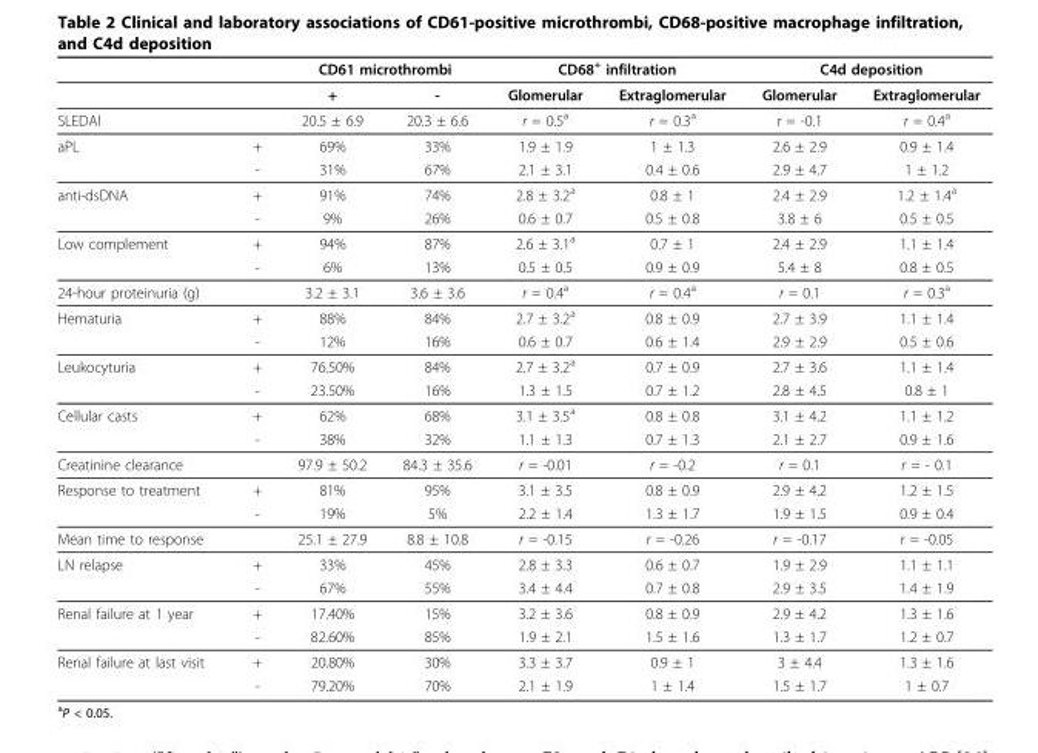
<table><thead><tr><td rowspan="2"></td><td rowspan="2"></td><td colspan="2">CD61 microthrombi</td><td colspan="2">CD68<sup>+</sup> infiltration</td><td colspan="2">C4d deposition</td></tr><tr><td>+</td><td>-</td><td>Glomerular</td><td>Extraglomerular</td><td>Glomerular</td><td>Extraglomerular</td></tr></thead><tbody><tr><td>SLEDAI</td><td></td><td>20.5 ± 6.9</td><td>20.3 ± 6.6</td><td>r = 0.5<sup>a</sup></td><td>r = 0.3<sup>a</sup></td><td>r = -0.1</td><td>r = 0.4<sup>a</sup></td></tr><tr><td rowspan="2">aPL</td><td>+</td><td>69%</td><td>33%</td><td>1.9 ± 1.9</td><td>1 ± 1.3</td><td>2.6 ± 2.9</td><td>0.9 ± 1.4</td></tr><tr><td>-</td><td>31%</td><td>67%</td><td>2.1 ± 3.1</td><td>0.4 ± 0.6</td><td>2.9 ± 4.7</td><td>1 ± 1.2</td></tr><tr><td rowspan="2">anti-dsDNA</td><td>+</td><td>91%</td><td>74%</td><td>2.8 ± 3.2<sup>a</sup></td><td>0.8 ± 1</td><td>2.4 ± 2.9</td><td>1.2 ± 1.4<sup>a</sup></td></tr><tr><td>-</td><td>9%</td><td>26%</td><td>0.6 ± 0.7</td><td>0.5 ± 0.8</td><td>3.8 ± 6</td><td>0.5 ± 0.5</td></tr><tr><td rowspan="2">Low complement</td><td>+</td><td>94%</td><td>87%</td><td>2.6 ± 3.1<sup>a</sup></td><td>0.7 ± 1</td><td>2.4 ± 2.9</td><td>1.1 ± 1.4</td></tr><tr><td>-</td><td>6%</td><td>13%</td><td>0.5 ± 0.5</td><td>0.9 ± 0.9</td><td>5.4 ± 8</td><td>0.8 ± 0.5</td></tr><tr><td>24-hour proteinuria (g)</td><td></td><td>3.2 ± 3.1</td><td>3.6 ± 3.6</td><td>r = 0.4<sup>a</sup></td><td>r = 0.4<sup>a</sup></td><td>r = 0.1</td><td>r = 0.3<sup>a</sup></td></tr><tr><td rowspan="2">Hematuria</td><td>+</td><td>88%</td><td>84%</td><td>2.7 ± 3.2<sup>a</sup></td><td>0.8 ± 0.9</td><td>2.7 ± 3.9</td><td>1.1 ± 1.4</td></tr><tr><td>-</td><td>12%</td><td>16%</td><td>0.6 ± 0.7</td><td>0.6 ± 1.4</td><td>2.9 ± 2.9</td><td>0.5 ± 0.6</td></tr><tr><td rowspan="2">Leukocyturia</td><td>+</td><td>76.50%</td><td>84%</td><td>2.7 ± 3.2<sup>a</sup></td><td>0.7 ± 0.9</td><td>2.7 ± 3.6</td><td>1.1 ± 1.4</td></tr><tr><td>-</td><td>23.50%</td><td>16%</td><td>1.3 ± 1.5</td><td>0.7 ± 1.2</td><td>2.8 ± 4.5</td><td>0.8 ± 1</td></tr><tr><td rowspan="2">Cellular casts</td><td>+</td><td>62%</td><td>68%</td><td>3.1 ± 3.5<sup>a</sup></td><td>0.8 ± 0.8</td><td>3.1 ± 4.2</td><td>1.1 ± 1.2</td></tr><tr><td>-</td><td>38%</td><td>32%</td><td>1.1 ± 1.3</td><td>0.7 ± 1.3</td><td>2.1 ± 2.7</td><td>0.9 ± 1.6</td></tr><tr><td>Creatinine clearance</td><td></td><td>97.9 ± 50.2</td><td>84.3 ± 35.6</td><td>r = -0.01</td><td>r = -0.2</td><td>r = 0.1</td><td>r = - 0.1</td></tr><tr><td rowspan="2">Response to treatment</td><td>+</td><td>81%</td><td>95%</td><td>3.1 ± 3.5</td><td>0.8 ± 0.9</td><td>2.9 ± 4.2</td><td>1.2 ± 1.5</td></tr><tr><td>-</td><td>19%</td><td>5%</td><td>2.2 ± 1.4</td><td>1.3 ± 1.7</td><td>1.9 ± 1.5</td><td>0.9 ± 0.4</td></tr><tr><td>Mean time to response</td><td></td><td>25.1 ± 27.9</td><td>8.8 ± 10.8</td><td>r = -0.15</td><td>r = -0.26</td><td>r = -0.17</td><td>r = -0.05</td></tr><tr><td rowspan="2">LN relapse</td><td>+</td><td>33%</td><td>45%</td><td>2.8 ± 3.3</td><td>0.6 ± 0.7</td><td>1.9 ± 2.9</td><td>1.1 ± 1.1</td></tr><tr><td>-</td><td>67%</td><td>55%</td><td>3.4 ± 4.4</td><td>0.7 ± 0.8</td><td>2.9 ± 3.5</td><td>1.4 ± 1.9</td></tr><tr><td rowspan="2">Renal failure at 1 year</td><td>+</td><td>17.40%</td><td>15%</td><td>3.2 ± 3.6</td><td>0.8 ± 0.9</td><td>2.9 ± 4.2</td><td>1.3 ± 1.6</td></tr><tr><td>-</td><td>82.60%</td><td>85%</td><td>1.9 ± 2.1</td><td>1.5 ± 1.6</td><td>1.3 ± 1.7</td><td>1.2 ± 0.7</td></tr><tr><td rowspan="2">Renal failure at last visit</td><td>+</td><td>20.80%</td><td>30%</td><td>3.3 ± 3.7</td><td>0.9 ± 1</td><td>3 ± 4.4</td><td>1.3 ± 1.6</td></tr><tr><td>-</td><td>79.20%</td><td>70%</td><td>2.1 ± 1.9</td><td>1 ± 1.4</td><td>1.5 ± 1.7</td><td>1 ± 0.7</td></tr></tbody></table>